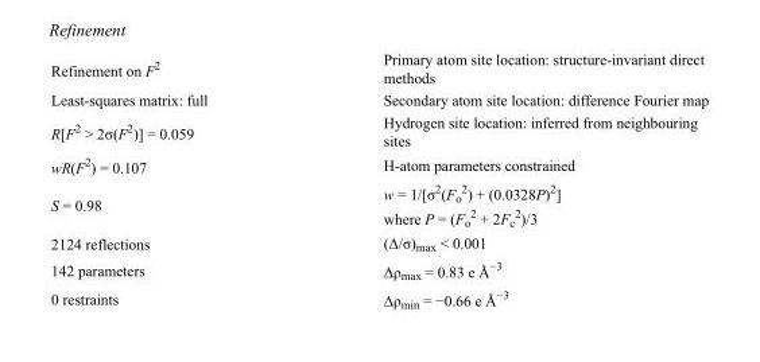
<table><tbody><tr><td>Refinement on F<sup>2</sup></td><td>Primary atom site location: structure-invariant direct methods</td></tr><tr><td>Least-squares matrix: full</td><td>Secondary atom site location: difference Fourier map</td></tr><tr><td>R[F<sup>2</sup> &gt; 2σ(F<sup>2</sup>)] = 0.059</td><td>Hydrogen site location: inferred from neighbouring sites</td></tr><tr><td>wR(F<sup>2</sup>) = 0.107</td><td>H-atom parameters constrained</td></tr><tr><td>S = 0.98</td><td>w = 1/[σ<sup>2</sup>(F<sub>o</sub> <sup>2</sup>) + (0.0328P)<sup>2</sup>] where P = (F<sub>o</sub> <sup>2</sup> + 2F<sub>c</sub> <sup>2</sup>)/3</td></tr><tr><td>2124 reflections</td><td>(Δ/σ)<sub>max</sub> &lt; 0.001</td></tr><tr><td>142 parameters</td><td>Δρ<sub>max</sub> = 0.83 e Å<sup>−3</sup></td></tr><tr><td>0 restraints</td><td>Δρ<sub>min</sub> = −0.66 e Å<sup>−3</sup></td></tr></tbody></table>